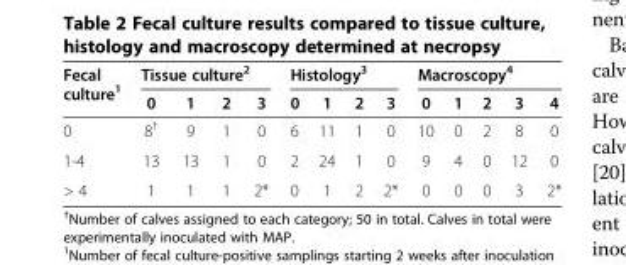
<table><thead><tr><td rowspan="2">Fecal culture<sup>1</sup></td><td colspan="4">Tissue culture<sup>2</sup></td><td colspan="4">Histology<sup>3</sup></td><td colspan="5">Macroscopy<sup>4</sup></td></tr><tr><td>0</td><td>1</td><td>2</td><td>3</td><td>0</td><td>1</td><td>2</td><td>3</td><td>0</td><td>1</td><td>2</td><td>3</td><td>4</td></tr></thead><tbody><tr><td>0</td><td>8<sup>†</sup></td><td>9</td><td>1</td><td>0</td><td>6</td><td>11</td><td>1</td><td>0</td><td>10</td><td>0</td><td>2</td><td>8</td><td>0</td></tr><tr><td>1-4</td><td>13</td><td>13</td><td>1</td><td>0</td><td>2</td><td>24</td><td>1</td><td>0</td><td>9</td><td>4</td><td>0</td><td>12</td><td>0</td></tr><tr><td>&gt; 4</td><td>1</td><td>1</td><td>1</td><td>2*</td><td>0</td><td>1</td><td>2</td><td>2*</td><td>0</td><td>0</td><td>0</td><td>3</td><td>2*</td></tr></tbody></table>